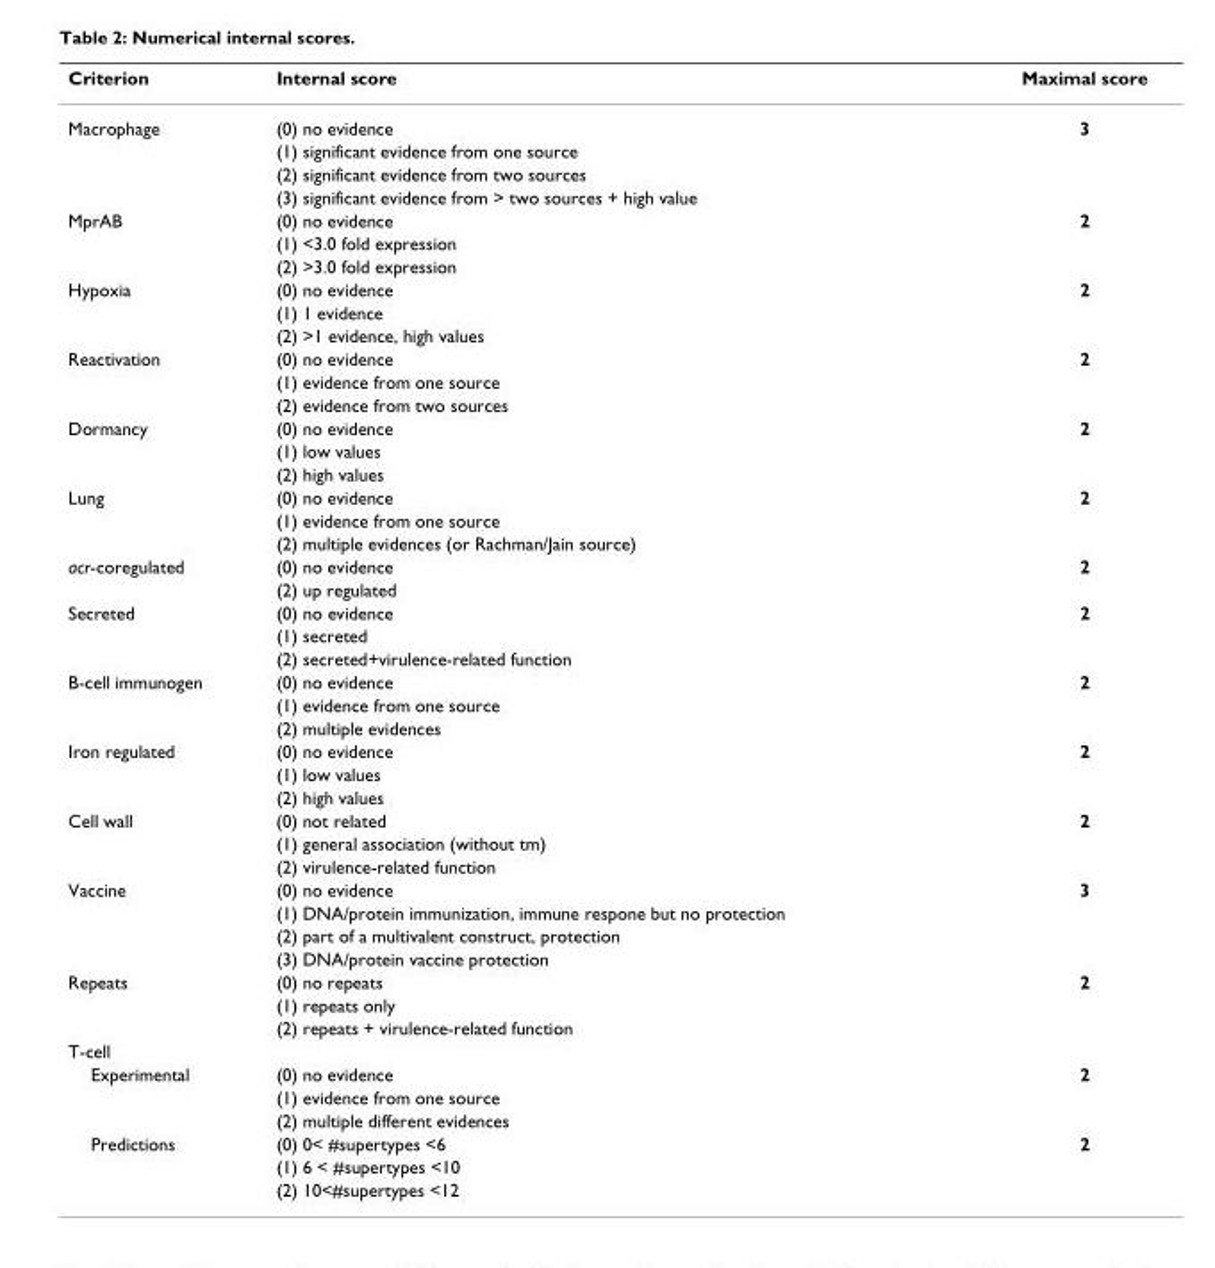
<table><thead><tr><td>Criterion</td><td>Internal score</td><td>Maximal score</td></tr></thead><tbody><tr><td rowspan="4">Macrophage</td><td>(0) no evidence</td><td>3</td></tr><tr><td>(1) significant evidence from one source</td><td></td></tr><tr><td>(2) significant evidence from two sources</td><td></td></tr><tr><td>(3) significant evidence from &gt; two sources + high value</td><td></td></tr><tr><td rowspan="3">MprAB</td><td>(0) no evidence</td><td>2</td></tr><tr><td>(1) &lt;3.0 fold expression</td><td></td></tr><tr><td>(2) &gt;3.0 fold expression</td><td></td></tr><tr><td rowspan="3">Hypoxia</td><td>(0) no evidence</td><td>2</td></tr><tr><td>(1) 1 evidence</td><td></td></tr><tr><td>(2) &gt;1 evidence, high values</td><td></td></tr><tr><td rowspan="3">Reactivation</td><td>(0) no evidence</td><td>2</td></tr><tr><td>(1) evidence from one source</td><td></td></tr><tr><td>(2) evidence from two sources</td><td></td></tr><tr><td rowspan="3">Dormancy</td><td>(0) no evidence</td><td>2</td></tr><tr><td>(1) low values</td><td></td></tr><tr><td>(2) high values</td><td></td></tr><tr><td rowspan="3">Lung</td><td>(0) no evidence</td><td>2</td></tr><tr><td>(1) evidence from one source</td><td></td></tr><tr><td>(2) multiple evidences (or Rachman/Jain source)</td><td></td></tr><tr><td rowspan="2">acr-coregulated</td><td>(0) no evidence</td><td>2</td></tr><tr><td>(2) up regulated</td><td></td></tr><tr><td rowspan="3">Secreted</td><td>(0) no evidence</td><td>2</td></tr><tr><td>(1) secreted</td><td></td></tr><tr><td>(2) secreted+virulence-related function</td><td></td></tr><tr><td rowspan="3">B-cell immunogen</td><td>(0) no evidence</td><td>2</td></tr><tr><td>(1) evidence from one source</td><td></td></tr><tr><td>(2) multiple evidences</td><td></td></tr><tr><td rowspan="3">Iron regulated</td><td>(0) no evidence</td><td>2</td></tr><tr><td>(1) low values</td><td></td></tr><tr><td>(2) high values</td><td></td></tr><tr><td rowspan="3">Cell wall</td><td>(0) not related</td><td>2</td></tr><tr><td>(1) general association (without tm)</td><td></td></tr><tr><td>(2) virulence-related function</td><td></td></tr><tr><td rowspan="4">Vaccine</td><td>(0) no evidence</td><td>3</td></tr><tr><td>(1) DNA/protein immunization, immune respone but no protection</td><td></td></tr><tr><td>(2) part of a multivalent construct, protection</td><td></td></tr><tr><td>(3) DNA/protein vaccine protection</td><td></td></tr><tr><td rowspan="3">Repeats</td><td>(0) no repeats</td><td>2</td></tr><tr><td>(1) repeats only</td><td></td></tr><tr><td>(2) repeats + virulence-related function</td><td></td></tr><tr><td colspan="3">T-cell</td></tr><tr><td rowspan="3">Experimental</td><td>(0) no evidence</td><td>2</td></tr><tr><td>(1) evidence from one source</td><td></td></tr><tr><td>(2) multiple different evidences</td><td></td></tr><tr><td rowspan="3">Predictions</td><td>(0) 0&lt; #supertypes &lt;6</td><td>2</td></tr><tr><td>(1) 6 &lt; #supertypes &lt;10</td><td></td></tr><tr><td>(2) 10&lt;#supertypes &lt;12</td><td></td></tr></tbody></table>